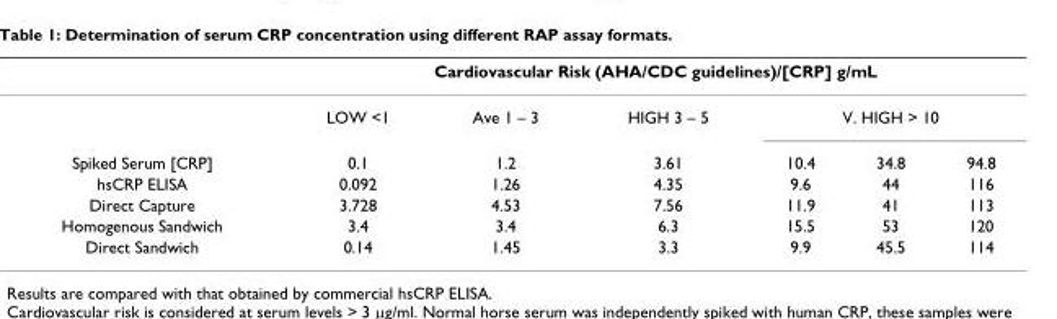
<table><thead><tr><td rowspan="3">Spiked Serum [CRP]</td><td colspan="6">Cardiovascular Risk (AHA/CDC guidelines)/[CRP] g/mL</td></tr><tr><td rowspan="2">LOW &lt;1 0.1</td><td rowspan="2">Ave 1 – 3 1.2</td><td rowspan="2">HIGH 3 – 5 3.61</td><td colspan="3">V. HIGH &gt; 10</td></tr><tr><td>10.4</td><td>34.8</td><td>94.8</td></tr></thead><tbody><tr><td>hsCRP ELISA</td><td>0.092</td><td>1.26</td><td>4.35</td><td>9.6</td><td>44</td><td>116</td></tr><tr><td>Direct Capture</td><td>3.728</td><td>4.53</td><td>7.56</td><td>11.9</td><td>41</td><td>113</td></tr><tr><td>Homogenous Sandwich</td><td>3.4</td><td>3.4</td><td>6.3</td><td>15.5</td><td>53</td><td>120</td></tr><tr><td>Direct Sandwich</td><td>0.14</td><td>1.45</td><td>3.3</td><td>9.9</td><td>45.5</td><td>114</td></tr></tbody></table>